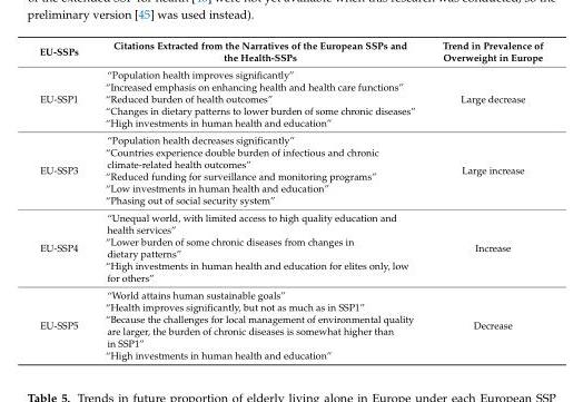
<table><thead><tr><td>EU-SSPs</td><td>Citations Extracted from the Narratives of the European SSPs and the Health-SSPs</td><td>Trend in Prevalence of Overweight in Europe</td></tr></thead><tbody><tr><td>EU-SSP1</td><td>“Population health improves significantly” “Increased emphasis on enhancing health and health care functions” “Reduced burden of health outcomes” “Changes in dietary patterns to lower burden of some chronic diseases” “High investments in human health and education”</td><td>Large decrease</td></tr><tr><td>EU-SSP3</td><td>“Population health decreases significantly” “Countries experience double burden of infectious and chronic climate-related health outcomes” “Reduced funding for surveillance and monitoring programs” “Low investments in human health and education” “Phasing out of social security system”</td><td>Large increase</td></tr><tr><td>EU-SSP4</td><td>“Unequal world, with limited access to high quality education and health services” “Lower burden of some chronic diseases from changes in dietary patterns” “High investments in human health and education for elites only, low for others”</td><td>Increase</td></tr><tr><td>EU-SSP5</td><td>“World attains human sustainable goals” “Health improves significantly, but not as much as in SSP1” “Because the challenges for local management of environmental quality are larger, the burden of chronic diseases is somewhat higher than in SSP1” “High investments in human health and education”</td><td>Decrease</td></tr></tbody></table>